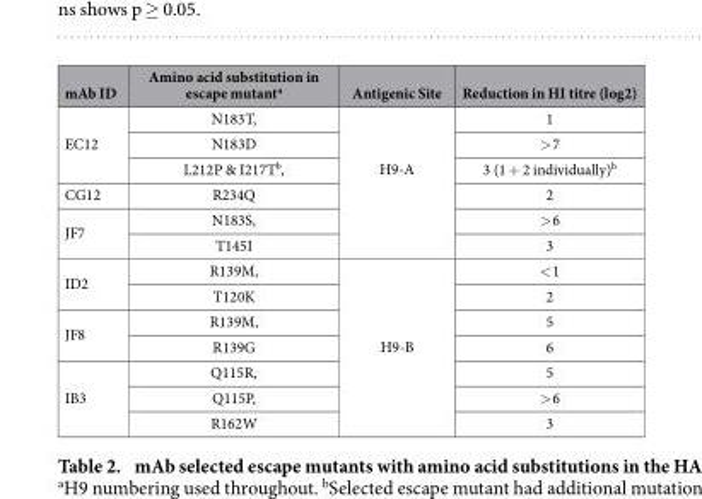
<table><thead><tr><td>mAb ID</td><td>Amino acid substitution in escape mutant<sup>a</sup></td><td>Antigenic Site</td><td>Reduction in HI titre (log2)</td></tr></thead><tbody><tr><td rowspan="3">EC12</td><td>N183T,</td><td rowspan="6">H9-A</td><td>1</td></tr><tr><td>N183D</td><td>&gt; 7</td></tr><tr><td>L212P &amp; I217T<sup>b</sup>,</td><td>3 (1 + 2 individually)<sup>b</sup></td></tr><tr><td>CG12</td><td>R234Q</td><td>2</td></tr><tr><td rowspan="2">JF7</td><td>N183S,</td><td>&gt; 6</td></tr><tr><td>T145I</td><td>3</td></tr><tr><td rowspan="2">ID2</td><td>R139M,</td><td rowspan="7">H9-B</td><td>&lt; 1</td></tr><tr><td>T120K</td><td>2</td></tr><tr><td rowspan="2">JF8</td><td>R139M,</td><td>5</td></tr><tr><td>R139G</td><td>6</td></tr><tr><td rowspan="3">IB3</td><td>Q115R,</td><td>5</td></tr><tr><td>Q115P,</td><td>&gt; 6</td></tr><tr><td>R162W</td><td>3</td></tr></tbody></table>